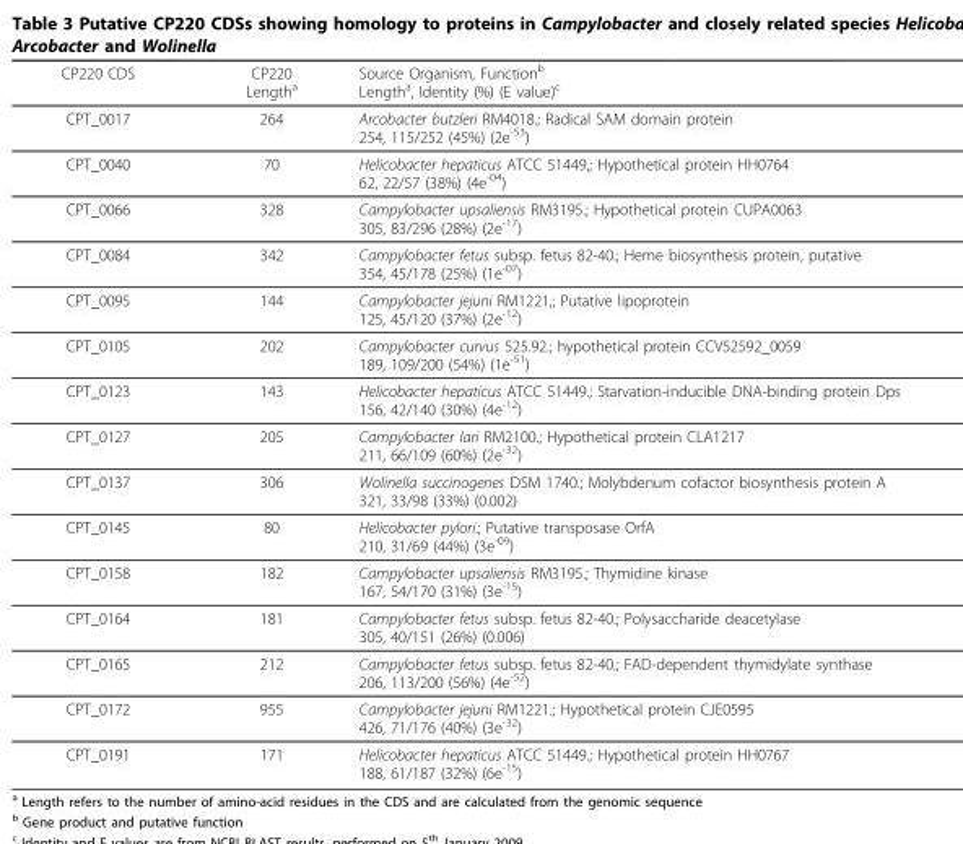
<table><thead><tr><td>CP220 CDS</td><td>CP220 Length<sup>a</sup></td><td>Source Organism, Function<sup>b</sup> Length<sup>a</sup>, Identity (%) (E value)<sup>c</sup></td></tr></thead><tbody><tr><td>CPT_0017</td><td>264</td><td>Arcobacter butzleri RM4018.; Radical SAM domain protein 254, 115/252 (45%) (2e<sup>-53</sup>)</td></tr><tr><td>CPT_0040</td><td>70</td><td>Helicobacter hepaticus ATCC 51449,; Hypothetical protein HH0764 62, 22/57 (38%) (4e<sup>-04</sup>)</td></tr><tr><td>CPT_0066</td><td>328</td><td>Campylobacter upsaliensis RM3195.; Hypothetical protein CUPA0063 305, 83/296 (28%) (2e<sup>-17</sup>)</td></tr><tr><td>CPT_0084</td><td>342</td><td>Campylobacter fetus subsp. fetus 82-40.; Heme biosynthesis protein, putative 354, 45/178 (25%) (1e<sup>-07</sup>)</td></tr><tr><td>CPT_0095</td><td>144</td><td>Campylobacter jejuni RM1221,; Putative lipoprotein 125, 45/120 (37%) (2e<sup>-12</sup>)</td></tr><tr><td>CPT_0105</td><td>202</td><td>Campylobacter curvus 525.92.; hypothetical protein CCV52592_0059 189, 109/200 (54%) (1e<sup>-51</sup>)</td></tr><tr><td>CPT_0123</td><td>143</td><td>Helicobacter hepaticus ATCC 51449.; Starvation-inducible DNA-binding protein Dps 156, 42/140 (30%) (4e<sup>-12</sup>)</td></tr><tr><td>CPT_0127</td><td>205</td><td>Campylobacter lari RM2100.; Hypothetical protein CLA1217 211, 66/109 (60%) (2e<sup>-32</sup>)</td></tr><tr><td>CPT_0137</td><td>306</td><td>Wolinella succinogenes DSM 1740.; Molybdenum cofactor biosynthesis protein A 321, 33/98 (33%) (0.002)</td></tr><tr><td>CPT_0145</td><td>80</td><td>Helicobacter pylori.; Putative transposase OrfA 210, 31/69 (44%) (3e<sup>-09</sup>)</td></tr><tr><td>CPT_0158</td><td>182</td><td>Campylobacter upsaliensis RM3195.; Thymidine kinase 167, 54/170 (31%) (3e<sup>-15</sup>)</td></tr><tr><td>CPT_0164</td><td>181</td><td>Campylobacter fetus subsp. fetus 82-40.; Polysaccharide deacetylase 305, 40/151 (26%) (0.006)</td></tr><tr><td>CPT_0165</td><td>212</td><td>Campylobacter fetus subsp. fetus 82-40.; FAD-dependent thymidylate synthase 206, 113/200 (56%) (4e<sup>-52</sup>)</td></tr><tr><td>CPT_0172</td><td>955</td><td>Campylobacter jejuni RM1221.; Hypothetical protein CJE0595 426, 71/176 (40%) (3e<sup>-32</sup>)</td></tr><tr><td>CPT_0191</td><td>171</td><td>Helicobacter hepaticus ATCC 51449.; Hypothetical protein HH0767 188, 61/187 (32%) (6e<sup>-15</sup>)</td></tr></tbody></table>